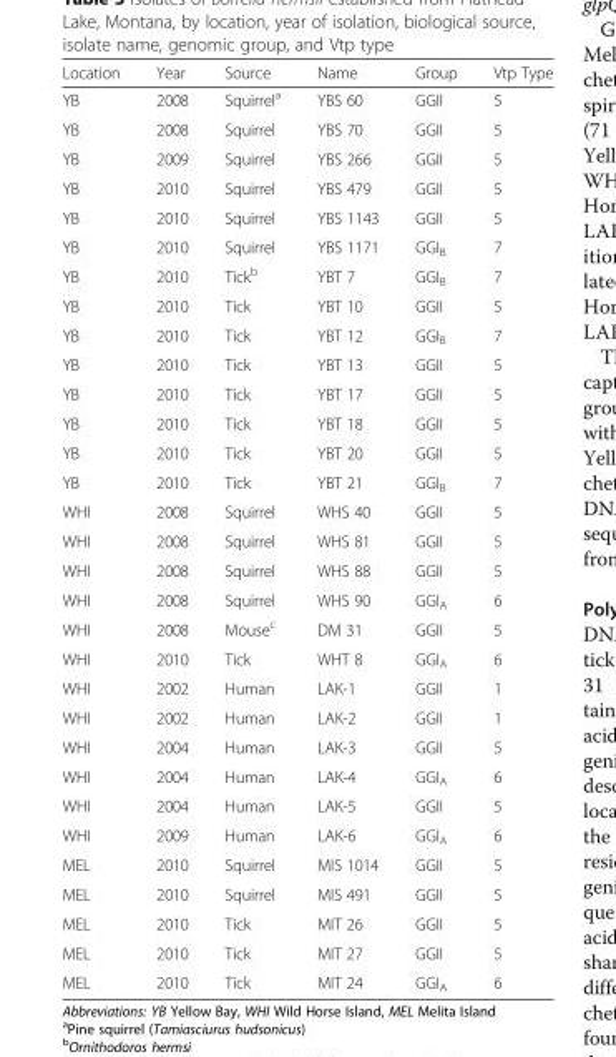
<table><thead><tr><td>Location</td><td>Year</td><td>Source</td><td>Name</td><td>Group</td><td>Vtp Type</td></tr></thead><tbody><tr><td>YB</td><td>2008</td><td>Squirrel<sup>a</sup></td><td>YBS 60</td><td>GGII</td><td>5</td></tr><tr><td>YB</td><td>2008</td><td>Squirrel</td><td>YBS 70</td><td>GGII</td><td>5</td></tr><tr><td>YB</td><td>2009</td><td>Squirrel</td><td>YBS 266</td><td>GGII</td><td>5</td></tr><tr><td>YB</td><td>2010</td><td>Squirrel</td><td>YBS 479</td><td>GGII</td><td>5</td></tr><tr><td>YB</td><td>2010</td><td>Squirrel</td><td>YBS 1143</td><td>GGII</td><td>5</td></tr><tr><td>YB</td><td>2010</td><td>Squirrel</td><td>YBS 1171</td><td>GGI<sub>B</sub></td><td>7</td></tr><tr><td>YB</td><td>2010</td><td>Tick<sup>b</sup></td><td>YBT 7</td><td>GGI<sub>B</sub></td><td>7</td></tr><tr><td>YB</td><td>2010</td><td>Tick</td><td>YBT 10</td><td>GGII</td><td>5</td></tr><tr><td>YB</td><td>2010</td><td>Tick</td><td>YBT 12</td><td>GGI<sub>B</sub></td><td>7</td></tr><tr><td>YB</td><td>2010</td><td>Tick</td><td>YBT 13</td><td>GGII</td><td>5</td></tr><tr><td>YB</td><td>2010</td><td>Tick</td><td>YBT 17</td><td>GGII</td><td>5</td></tr><tr><td>YB</td><td>2010</td><td>Tick</td><td>YBT 18</td><td>GGII</td><td>5</td></tr><tr><td>YB</td><td>2010</td><td>Tick</td><td>YBT 20</td><td>GGII</td><td>5</td></tr><tr><td>YB</td><td>2010</td><td>Tick</td><td>YBT 21</td><td>GGI<sub>B</sub></td><td>7</td></tr><tr><td>WHI</td><td>2008</td><td>Squirrel</td><td>WHS 40</td><td>GGII</td><td>5</td></tr><tr><td>WHI</td><td>2008</td><td>Squirrel</td><td>WHS 81</td><td>GGII</td><td>5</td></tr><tr><td>WHI</td><td>2008</td><td>Squirrel</td><td>WHS 88</td><td>GGII</td><td>5</td></tr><tr><td>WHI</td><td>2008</td><td>Squirrel</td><td>WHS 90</td><td>GGI<sub>A</sub></td><td>6</td></tr><tr><td>WHI</td><td>2008</td><td>Mouse<sup>c</sup></td><td>DM 31</td><td>GGII</td><td>5</td></tr><tr><td>WHI</td><td>2010</td><td>Tick</td><td>WHT 8</td><td>GGI<sub>A</sub></td><td>6</td></tr><tr><td>WHI</td><td>2002</td><td>Human</td><td>LAK-1</td><td>GGII</td><td>1</td></tr><tr><td>WHI</td><td>2002</td><td>Human</td><td>LAK-2</td><td>GGII</td><td>1</td></tr><tr><td>WHI</td><td>2004</td><td>Human</td><td>LAK-3</td><td>GGII</td><td>5</td></tr><tr><td>WHI</td><td>2004</td><td>Human</td><td>LAK-4</td><td>GGI<sub>A</sub></td><td>6</td></tr><tr><td>WHI</td><td>2004</td><td>Human</td><td>LAK-5</td><td>GGII</td><td>5</td></tr><tr><td>WHI</td><td>2009</td><td>Human</td><td>LAK-6</td><td>GGI<sub>A</sub></td><td>6</td></tr><tr><td>MEL</td><td>2010</td><td>Squirrel</td><td>MIS 1014</td><td>GGII</td><td>5</td></tr><tr><td>MEL</td><td>2010</td><td>Squirrel</td><td>MIS 491</td><td>GGII</td><td>5</td></tr><tr><td>MEL</td><td>2010</td><td>Tick</td><td>MIT 26</td><td>GGII</td><td>5</td></tr><tr><td>MEL</td><td>2010</td><td>Tick</td><td>MIT 27</td><td>GGII</td><td>5</td></tr><tr><td>MEL</td><td>2010</td><td>Tick</td><td>MIT 24</td><td>GGI<sub>A</sub></td><td>6</td></tr></tbody></table>